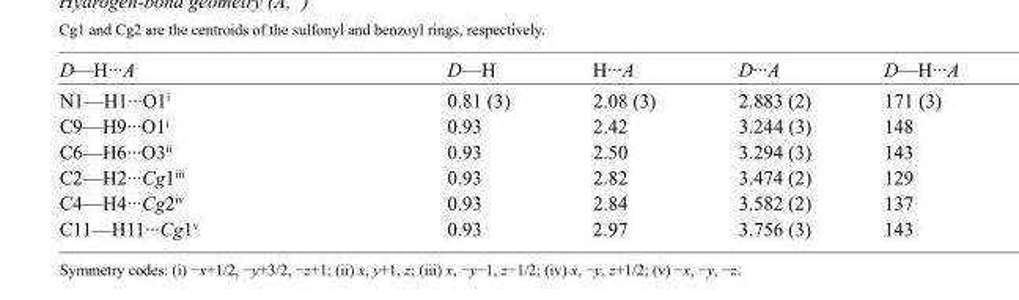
<table><tbody><tr><td>D—H···A</td><td>D—H</td><td>H···A</td><td>D···A</td><td>D—H···A</td></tr><tr><td>N1—H1···O1<sup>i</sup></td><td>0.81 (3)</td><td>2.08 (3)</td><td>2.883 (2)</td><td>171 (3)</td></tr><tr><td>C9—H9···O1<sup>i</sup></td><td>0.93</td><td>2.42</td><td>3.244 (3)</td><td>148</td></tr><tr><td>C6—H6···O3<sup>ii</sup></td><td>0.93</td><td>2.50</td><td>3.294 (3)</td><td>143</td></tr><tr><td>C2—H2···Cg1<sup>iii</sup></td><td>0.93</td><td>2.82</td><td>3.474 (2)</td><td>129</td></tr><tr><td>C4—H4···Cg2<sup>iv</sup></td><td>0.93</td><td>2.84</td><td>3.582 (2)</td><td>137</td></tr><tr><td>C11—H11···Cg1<sup>v</sup></td><td>0.93</td><td>2.97</td><td>3.756 (3)</td><td>143</td></tr></tbody></table>